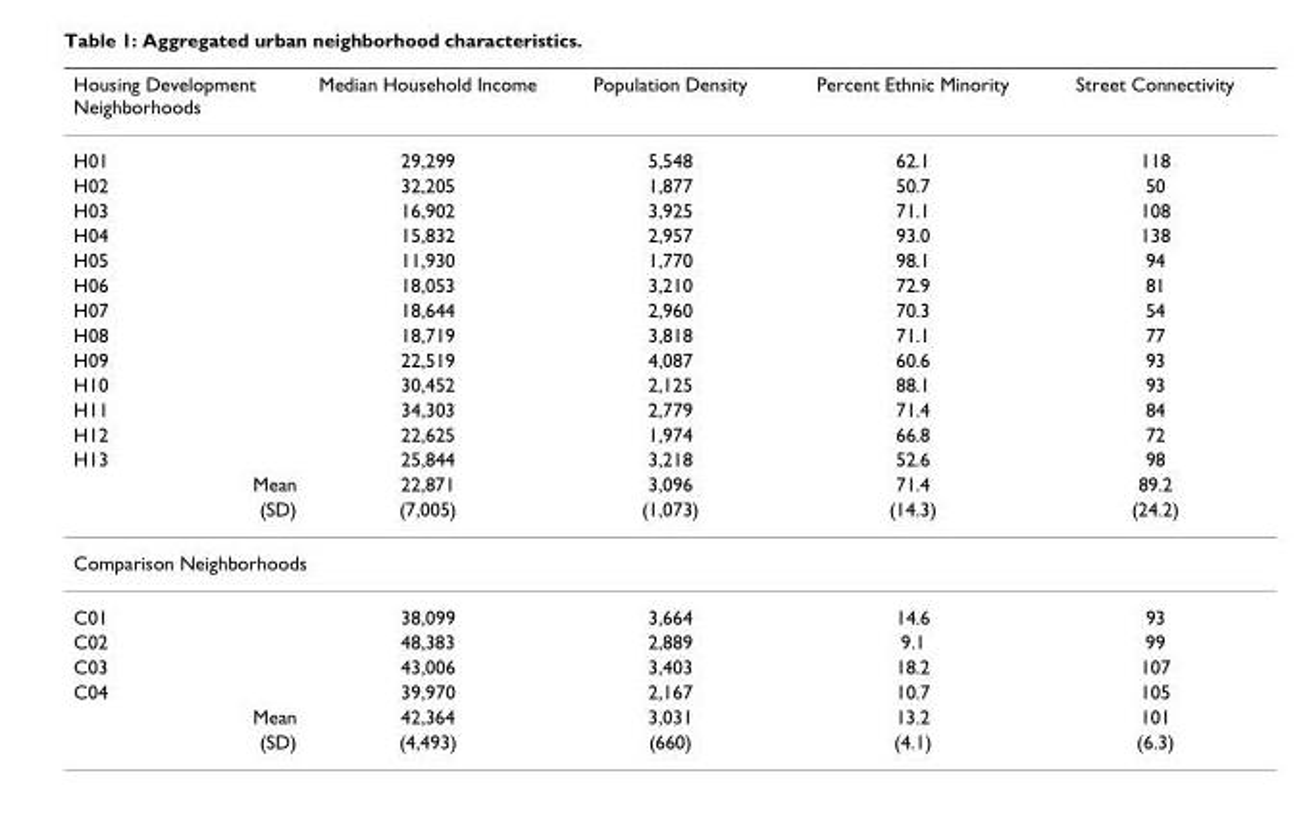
<table><thead><tr><td>Housing Development Neighborhoods</td><td>Median Household Income</td><td>Population Density</td><td>Percent Ethnic Minority</td><td>Street Connectivity</td></tr></thead><tbody><tr><td>H01</td><td>29,299</td><td>5,548</td><td>62.1</td><td>118</td></tr><tr><td>H02</td><td>32,205</td><td>1,877</td><td>50.7</td><td>50</td></tr><tr><td>H03</td><td>16,902</td><td>3,925</td><td>71.1</td><td>108</td></tr><tr><td>H04</td><td>15,832</td><td>2,957</td><td>93.0</td><td>138</td></tr><tr><td>H05</td><td>11,930</td><td>1,770</td><td>98.1</td><td>94</td></tr><tr><td>H06</td><td>18,053</td><td>3,210</td><td>72.9</td><td>81</td></tr><tr><td>H07</td><td>18,644</td><td>2,960</td><td>70.3</td><td>54</td></tr><tr><td>H08</td><td>18,719</td><td>3,818</td><td>71.1</td><td>77</td></tr><tr><td>H09</td><td>22,519</td><td>4,087</td><td>60.6</td><td>93</td></tr><tr><td>H10</td><td>30,452</td><td>2,125</td><td>88.1</td><td>93</td></tr><tr><td>H11</td><td>34,303</td><td>2,779</td><td>71.4</td><td>84</td></tr><tr><td>H12</td><td>22,625</td><td>1,974</td><td>66.8</td><td>72</td></tr><tr><td>H13</td><td>25,844</td><td>3,218</td><td>52.6</td><td>98</td></tr><tr><td>Mean</td><td>22,871</td><td>3,096</td><td>71.4</td><td>89.2</td></tr><tr><td>(SD)</td><td>(7,005)</td><td>(1,073)</td><td>(14.3)</td><td>(24.2)</td></tr><tr><td colspan="5">Comparison Neighborhoods</td></tr><tr><td>C01</td><td>38,099</td><td>3,664</td><td>14.6</td><td>93</td></tr><tr><td>C02</td><td>48,383</td><td>2,889</td><td>9.1</td><td>99</td></tr><tr><td>C03</td><td>43,006</td><td>3,403</td><td>18.2</td><td>107</td></tr><tr><td>C04</td><td>39,970</td><td>2,167</td><td>10.7</td><td>105</td></tr><tr><td>Mean</td><td>42,364</td><td>3,031</td><td>13.2</td><td>101</td></tr><tr><td>(SD)</td><td>(4,493)</td><td>(660)</td><td>(4.1)</td><td>(6.3)</td></tr></tbody></table>